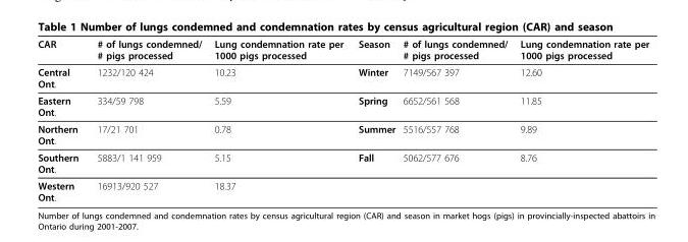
<table><thead><tr><td>CAR</td><td># of lungs condemned/ # pigs processed</td><td>Lung condemnation rate per 1000 pigs processed</td><td>Season</td><td># of lungs condemned/ # pigs processed</td><td>Lung condemnation rate per 1000 pigs processed</td></tr></thead><tbody><tr><td>Central Ont.</td><td>1232/120 424</td><td>10.23</td><td>Winter</td><td>7149/567 397</td><td>12.60</td></tr><tr><td>Eastern Ont.</td><td>334/59 798</td><td>5.59</td><td>Spring</td><td>6652/561 568</td><td>11.85</td></tr><tr><td>Northern Ont.</td><td>17/21 701</td><td>0.78</td><td>Summer</td><td>5516/557 768</td><td>9.89</td></tr><tr><td>Southern Ont.</td><td>5883/1 141 959</td><td>5.15</td><td>Fall</td><td>5062/577 676</td><td>8.76</td></tr><tr><td>Western Ont.</td><td>16913/920 527</td><td>18.37</td><td></td><td></td><td></td></tr></tbody></table>